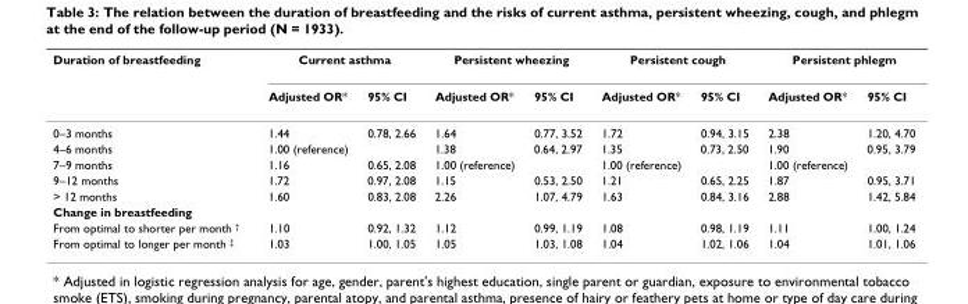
<table><thead><tr><td rowspan="2">Duration of breastfeeding</td><td colspan="2">Current asthma</td><td colspan="2">Persistent wheezing</td><td colspan="2">Persistent cough</td><td colspan="2">Persistent phlegm</td></tr><tr><td>Adjusted OR*</td><td>95% CI</td><td>Adjusted OR*</td><td>95% CI</td><td>Adjusted OR*</td><td>95% CI</td><td>Adjusted OR*</td><td>95% CI</td></tr></thead><tbody><tr><td>0–3 months</td><td>1.44</td><td>0.78, 2.66</td><td>1.64</td><td>0.77, 3.52</td><td>1.72</td><td>0.94, 3.15</td><td>2.38</td><td>1.20, 4.70</td></tr><tr><td>4–6 months</td><td colspan="2">1.00 (reference)</td><td>1.38</td><td>0.64, 2.97</td><td>1.35</td><td>0.73, 2.50</td><td>1.90</td><td>0.95, 3.79</td></tr><tr><td>7–9 months</td><td>1.16</td><td>0.65, 2.08</td><td colspan="2">1.00 (reference)</td><td colspan="2">1.00 (reference)</td><td colspan="2">1.00 (reference)</td></tr><tr><td>9–12 months</td><td>1.72</td><td>0.97, 2.08</td><td>1.15</td><td>0.53, 2.50</td><td>1.21</td><td>0.65, 2.25</td><td>1.87</td><td>0.95, 3.71</td></tr><tr><td>&gt; 12 months</td><td>1.60</td><td>0.83, 2.08</td><td>2.26</td><td>1.07, 4.79</td><td>1.63</td><td>0.84, 3.16</td><td>2.88</td><td>1.42, 5.84</td></tr><tr><td colspan="9">Change in breastfeeding</td></tr><tr><td>From optimal to shorter per month <sup>†</sup></td><td>1.10</td><td>0.92, 1.32</td><td>1.12</td><td>0.99, 1.19</td><td>1.08</td><td>0.98, 1.19</td><td>1.11</td><td>1.00, 1.24</td></tr><tr><td>From optimal to longer per month <sup>‡</sup></td><td>1.03</td><td>1.00, 1.05</td><td>1.05</td><td>1.03, 1.08</td><td>1.04</td><td>1.02, 1.06</td><td>1.04</td><td>1.01, 1.06</td></tr></tbody></table>